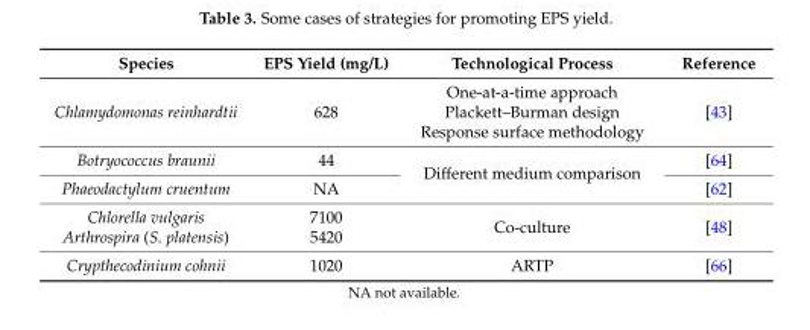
<table><thead><tr><td>Species</td><td>EPS Yield (mg/L)</td><td>Technological Process</td><td>Reference</td></tr></thead><tbody><tr><td>Chlamydomonas reinhardtii</td><td>628</td><td>One-at-a-time approach Plackett–Burman design Response surface methodology</td><td>[43]</td></tr><tr><td>Botryococcus braunii</td><td>44</td><td rowspan="2">Different medium comparison</td><td>[64]</td></tr><tr><td>Phaeodactylum cruentum</td><td>NA</td><td>[62]</td></tr><tr><td>Chlorella vulgaris Arthrospira (S. platensis)</td><td>7100 5420</td><td>Co-culture</td><td>[48]</td></tr><tr><td>Crypthecodinium cohnii</td><td>1020</td><td>ARTP</td><td>[66]</td></tr></tbody></table>